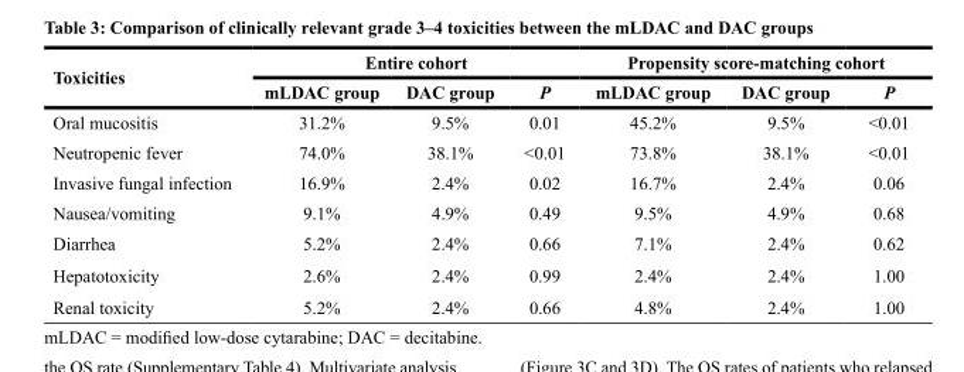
<table><thead><tr><td rowspan="2">Toxicities</td><td colspan="3">Entire cohort</td><td colspan="3">Propensity score-matching cohort</td></tr><tr><td>mLDAC group</td><td>DAC group</td><td>P</td><td>mLDAC group</td><td>DAC group</td><td>P</td></tr></thead><tbody><tr><td>Oral mucositis</td><td>31.2%</td><td>9.5%</td><td>0.01</td><td>45.2%</td><td>9.5%</td><td>&lt;0.01</td></tr><tr><td>Neutropenic fever</td><td>74.0%</td><td>38.1%</td><td>&lt;0.01</td><td>73.8%</td><td>38.1%</td><td>&lt;0.01</td></tr><tr><td>Invasive fungal infection</td><td>16.9%</td><td>2.4%</td><td>0.02</td><td>16.7%</td><td>2.4%</td><td>0.06</td></tr><tr><td>Nausea/vomiting</td><td>9.1%</td><td>4.9%</td><td>0.49</td><td>9.5%</td><td>4.9%</td><td>0.68</td></tr><tr><td>Diarrhea</td><td>5.2%</td><td>2.4%</td><td>0.66</td><td>7.1%</td><td>2.4%</td><td>0.62</td></tr><tr><td>Hepatotoxicity</td><td>2.6%</td><td>2.4%</td><td>0.99</td><td>2.4%</td><td>2.4%</td><td>1.00</td></tr><tr><td>Renal toxicity</td><td>5.2%</td><td>2.4%</td><td>0.66</td><td>4.8%</td><td>2.4%</td><td>1.00</td></tr></tbody></table>